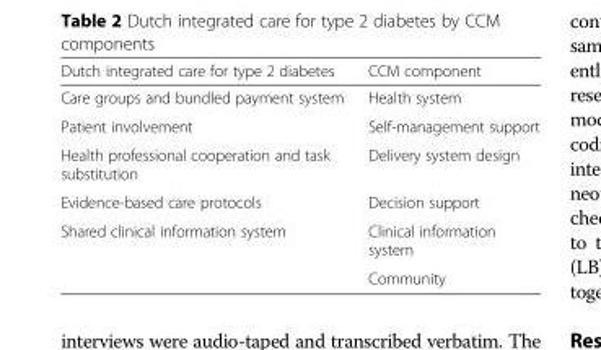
<table><thead><tr><td>Dutch integrated care for type 2 diabetes</td><td>CCM component</td></tr></thead><tbody><tr><td>Care groups and bundled payment system</td><td>Health system</td></tr><tr><td>Patient involvement</td><td>Self-management support</td></tr><tr><td>Health professional cooperation and task substitution</td><td>Delivery system design</td></tr><tr><td>Evidence-based care protocols</td><td>Decision support</td></tr><tr><td rowspan="2">Shared clinical information system</td><td>Clinical information system</td></tr><tr><td>Community</td></tr></tbody></table>